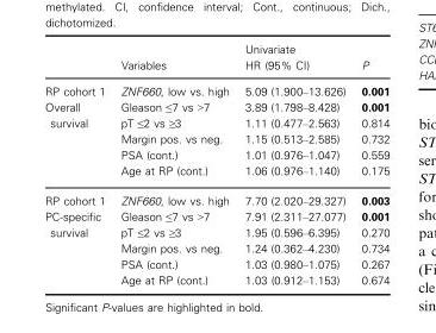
<table><thead><tr><td></td><td>Variables</td><td>Univariate HR (95% CI)</td><td>P</td></tr></thead><tbody><tr><td>RP cohort 1</td><td>ZNF660, low vs. high</td><td>5.09 (1.900–13.626)</td><td>0.001</td></tr><tr><td rowspan="5">Overall survival</td><td>Gleason ≤7 vs &gt;7</td><td>3.89 (1.798–8.428)</td><td>0.001</td></tr><tr><td>pT ≤2 vs ≥3</td><td>1.11 (0.477–2.563)</td><td>0.814</td></tr><tr><td>Margin pos. vs neg.</td><td>1.15 (0.513–2.585)</td><td>0.732</td></tr><tr><td>PSA (cont.)</td><td>1.01 (0.976–1.047)</td><td>0.559</td></tr><tr><td>Age at RP (cont.)</td><td>1.06 (0.976–1.140)</td><td>0.175</td></tr><tr><td>RP cohort 1</td><td>ZNF660, low vs. high</td><td>7.70 (2.020–29.327)</td><td>0.003</td></tr><tr><td rowspan="5">PC-specific survival</td><td>Gleason ≤7 vs &gt;7</td><td>7.91 (2.311–27.077)</td><td>0.001</td></tr><tr><td>pT ≤2 vs ≥3</td><td>1.95 (0.596–6.395)</td><td>0.270</td></tr><tr><td>Margin pos. vs neg.</td><td>1.24 (0.362–4.230)</td><td>0.734</td></tr><tr><td>PSA (cont.)</td><td>1.03 (0.980–1.075)</td><td>0.267</td></tr><tr><td>Age at RP (cont.)</td><td>1.03 (0.912–1.153)</td><td>0.674</td></tr></tbody></table>